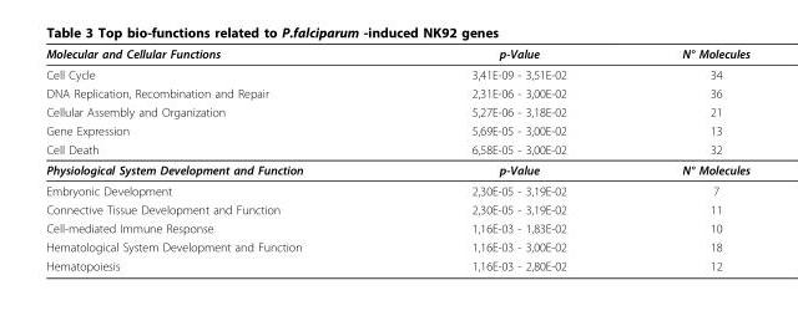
<table><thead><tr><td>Molecular and Cellular Functions</td><td>p-Value</td><td>N° Molecules</td></tr></thead><tbody><tr><td>Cell Cycle</td><td>3,41E-09 - 3,51E-02</td><td>34</td></tr><tr><td>DNA Replication, Recombination and Repair</td><td>2,31E-06 - 3,00E-02</td><td>36</td></tr><tr><td>Cellular Assembly and Organization</td><td>5,27E-06 - 3,18E-02</td><td>21</td></tr><tr><td>Gene Expression</td><td>5,69E-05 - 3,00E-02</td><td>13</td></tr><tr><td>Cell Death</td><td>6,58E-05 - 3,00E-02</td><td>32</td></tr><tr><td>Physiological System Development and Function</td><td>p-Value</td><td>N° Molecules</td></tr><tr><td>Embryonic Development</td><td>2,30E-05 - 3,19E-02</td><td>7</td></tr><tr><td>Connective Tissue Development and Function</td><td>2,30E-05 - 3,19E-02</td><td>11</td></tr><tr><td>Cell-mediated Immune Response</td><td>1,16E-03 - 1,83E-02</td><td>10</td></tr><tr><td>Hematological System Development and Function</td><td>1,16E-03 - 3,00E-02</td><td>18</td></tr><tr><td>Hematopoiesis</td><td>1,16E-03 - 2,80E-02</td><td>12</td></tr></tbody></table>